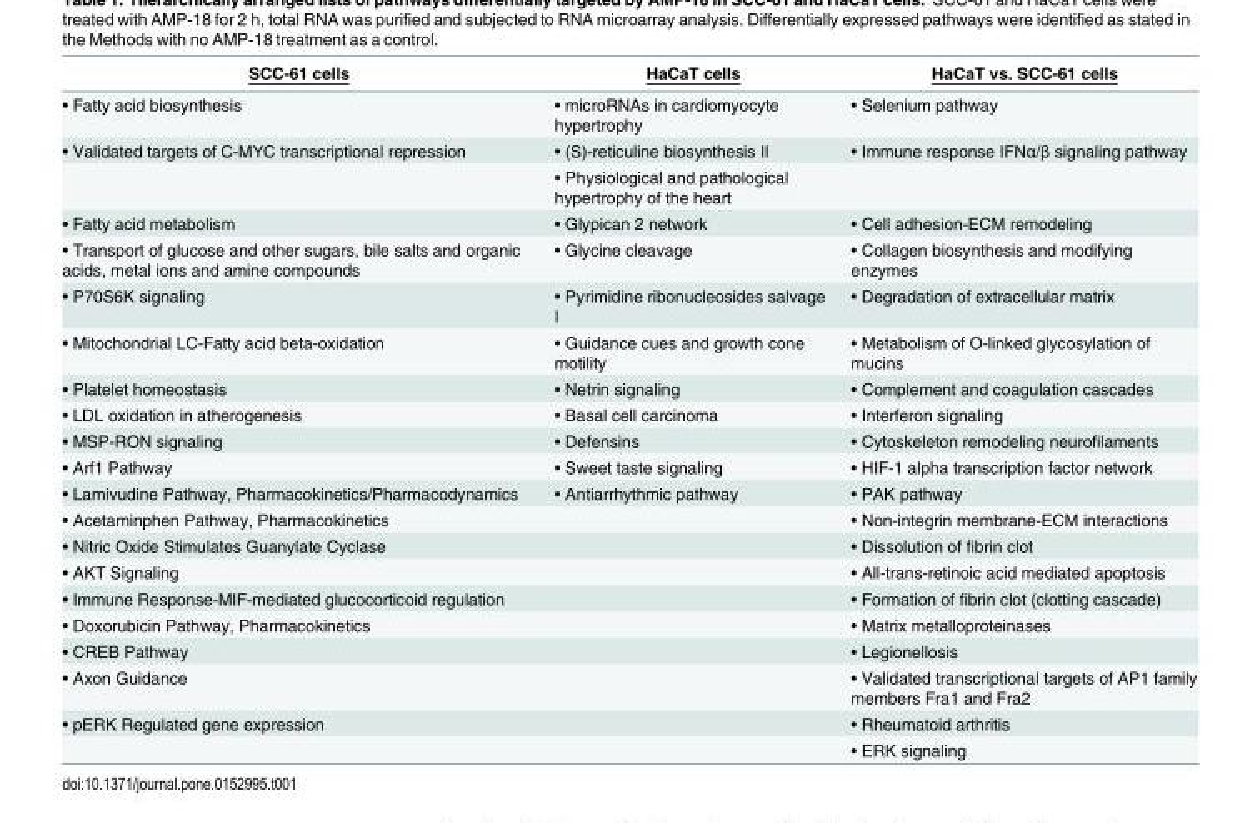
<table><thead><tr><td>SCC-61 cells</td><td>HaCaT cells</td><td>HaCaT vs. SCC-61 cells</td></tr></thead><tbody><tr><td>• Fatty acid biosynthesis</td><td>• microRNAs in cardiomyocyte hypertrophy</td><td>• Selenium pathway</td></tr><tr><td rowspan="2">• Validated targets of C-MYC transcriptional repression</td><td>• (S)-reticuline biosynthesis II</td><td>• Immune response IFNα/β signaling pathway</td></tr><tr><td>• Physiological and pathological hypertrophy of the heart</td><td></td></tr><tr><td>• Fatty acid metabolism</td><td>• Glypican 2 network</td><td>• Cell adhesion-ECM remodeling</td></tr><tr><td>• Transport of glucose and other sugars, bile salts and organic acids, metal ions and amine compounds</td><td>• Glycine cleavage</td><td>• Collagen biosynthesis and modifying enzymes</td></tr><tr><td>• P70S6K signaling</td><td>• Pyrimidine ribonucleosides salvage I</td><td>• Degradation of extracellular matrix</td></tr><tr><td>• Mitochondrial LC-Fatty acid beta-oxidation</td><td>• Guidance cues and growth cone motility</td><td>• Metabolism of O-linked glycosylation of mucins</td></tr><tr><td>• Platelet homeostasis</td><td>• Netrin signaling</td><td>• Complement and coagulation cascades</td></tr><tr><td>• LDL oxidation in atherogenesis</td><td>• Basal cell carcinoma</td><td>• Interferon signaling</td></tr><tr><td>• MSP-RON signaling</td><td>• Defensins</td><td>• Cytoskeleton remodeling neurofilaments</td></tr><tr><td>• Arf1 Pathway</td><td>• Sweet taste signaling</td><td>• HIF-1 alpha transcription factor network</td></tr><tr><td>• Lamivudine Pathway, Pharmacokinetics/Pharmacodynamics</td><td>• Antiarrhythmic pathway</td><td>• PAK pathway</td></tr><tr><td>• Acetaminphen Pathway, Pharmacokinetics</td><td></td><td>• Non-integrin membrane-ECM interactions</td></tr><tr><td>• Nitric Oxide Stimulates Guanylate Cyclase</td><td></td><td>• Dissolution of fibrin clot</td></tr><tr><td>• AKT Signaling</td><td></td><td>• All-trans-retinoic acid mediated apoptosis</td></tr><tr><td>• Immune Response-MIF-mediated glucocorticoid regulation</td><td></td><td>• Formation of fibrin clot (clotting cascade)</td></tr><tr><td>• Doxorubicin Pathway, Pharmacokinetics</td><td></td><td>• Matrix metalloproteinases</td></tr><tr><td>• CREB Pathway</td><td></td><td>• Legionellosis</td></tr><tr><td>• Axon Guidance</td><td></td><td>• Validated transcriptional targets of AP1 family members Fra1 and Fra2</td></tr><tr><td rowspan="2">• pERK Regulated gene expression</td><td></td><td>• Rheumatoid arthritis</td></tr><tr><td></td><td>• ERK signaling</td></tr></tbody></table>